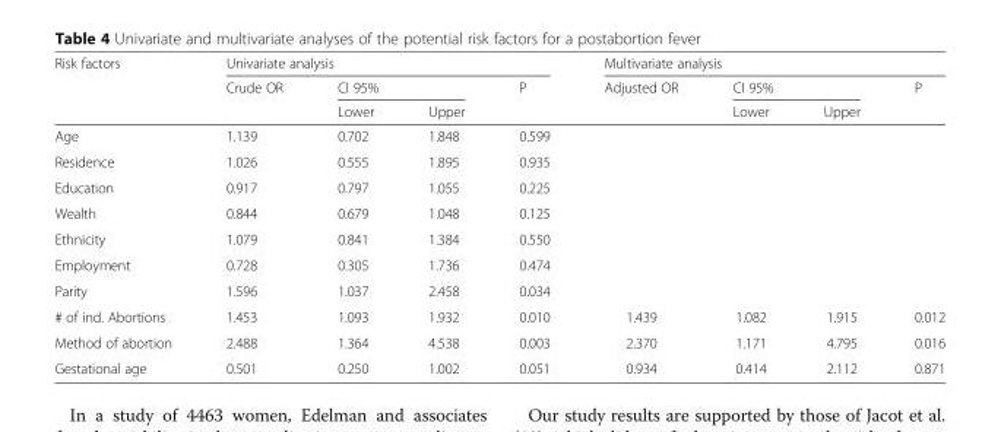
<table><thead><tr><td rowspan="3">Risk factors</td><td colspan="4">Univariate analysis</td><td colspan="4">Multivariate analysis</td></tr><tr><td rowspan="2">Crude OR</td><td colspan="2">CI 95%</td><td rowspan="2">P</td><td rowspan="2">Adjusted OR</td><td colspan="2">CI 95%</td><td rowspan="2">P</td></tr><tr><td>Lower</td><td>Upper</td><td>Lower</td><td>Upper</td></tr></thead><tbody><tr><td>Age</td><td>1.139</td><td>0.702</td><td>1.848</td><td>0.599</td><td></td><td></td><td></td><td></td></tr><tr><td>Residence</td><td>1.026</td><td>0.555</td><td>1.895</td><td>0.935</td><td></td><td></td><td></td><td></td></tr><tr><td>Education</td><td>0.917</td><td>0.797</td><td>1.055</td><td>0.225</td><td></td><td></td><td></td><td></td></tr><tr><td>Wealth</td><td>0.844</td><td>0.679</td><td>1.048</td><td>0.125</td><td></td><td></td><td></td><td></td></tr><tr><td>Ethnicity</td><td>1.079</td><td>0.841</td><td>1.384</td><td>0.550</td><td></td><td></td><td></td><td></td></tr><tr><td>Employment</td><td>0.728</td><td>0.305</td><td>1.736</td><td>0.474</td><td></td><td></td><td></td><td></td></tr><tr><td>Parity</td><td>1.596</td><td>1.037</td><td>2.458</td><td>0.034</td><td></td><td></td><td></td><td></td></tr><tr><td># of ind. Abortions</td><td>1.453</td><td>1.093</td><td>1.932</td><td>0.010</td><td>1.439</td><td>1.082</td><td>1.915</td><td>0.012</td></tr><tr><td>Method of abortion</td><td>2.488</td><td>1.364</td><td>4.538</td><td>0.003</td><td>2.370</td><td>1.171</td><td>4.795</td><td>0.016</td></tr><tr><td>Gestational age</td><td>0.501</td><td>0.250</td><td>1.002</td><td>0.051</td><td>0.934</td><td>0.414</td><td>2.112</td><td>0.871</td></tr></tbody></table>